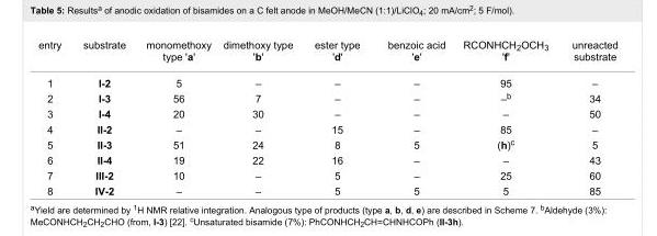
<table><tbody><tr><td>entry</td><td>substrate</td><td>monomethoxy type &#x27;a&#x27;</td><td>dimethoxy type &#x27;b&#x27;</td><td>ester type &#x27;d&#x27;</td><td>benzoic acid &#x27;e&#x27;</td><td>RCONHCH2OCH3 &#x27;f&#x27;</td><td>unreacted substrate</td></tr><tr><td>1</td><td>I-2</td><td>5</td><td>–</td><td>–</td><td>–</td><td>95</td><td>–</td></tr><tr><td>2</td><td>I-3</td><td>56</td><td>7</td><td>–</td><td>–</td><td>–<sup>b</sup></td><td>34</td></tr><tr><td>3</td><td>I-4</td><td>20</td><td>30</td><td>–</td><td>–</td><td>–</td><td>50</td></tr><tr><td>4</td><td>II-2</td><td>–</td><td>–</td><td>15</td><td>–</td><td>85</td><td>–</td></tr><tr><td>5</td><td>II-3</td><td>51</td><td>24</td><td>8</td><td>5</td><td>(h)<sup>c</sup></td><td>5</td></tr><tr><td>6</td><td>II-4</td><td>19</td><td>22</td><td>16</td><td>–</td><td>–</td><td>43</td></tr><tr><td>7</td><td>III-2</td><td>10</td><td>–</td><td>5</td><td>–</td><td>25</td><td>60</td></tr><tr><td>8</td><td>IV-2</td><td>–</td><td>–</td><td>5</td><td>5</td><td>5</td><td>85</td></tr></tbody></table>